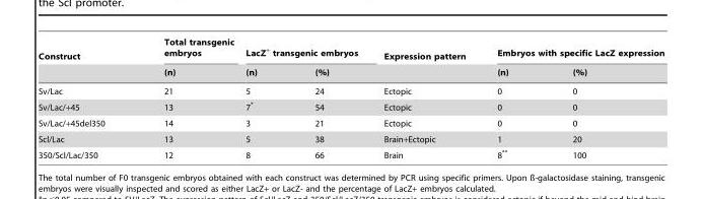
<table><thead><tr><td rowspan="2">Construct</td><td rowspan="2">Total transgenic embryos (n)</td><td colspan="2">LacZ<sup>+</sup> transgenic embryos</td><td rowspan="2">Expression pattern</td><td colspan="2">Embryos with specific LacZ expression</td></tr><tr><td>(n)</td><td>(%)</td><td>(n)</td><td>(%)</td></tr></thead><tbody><tr><td>Sv/Lac</td><td>21</td><td>5</td><td>24</td><td>Ectopic</td><td>0</td><td>0</td></tr><tr><td>Sv/Lac/+45</td><td>13</td><td>7*</td><td>54</td><td>Ectopic</td><td>0</td><td>0</td></tr><tr><td>Sv/Lac/+45del350</td><td>14</td><td>3</td><td>21</td><td>Ectopic</td><td>0</td><td>0</td></tr><tr><td>Scl/Lac</td><td>13</td><td>5</td><td>38</td><td>Brain+Ectopic</td><td>1</td><td>20</td></tr><tr><td>350/Scl/Lac/350</td><td>12</td><td>8</td><td>66</td><td>Brain</td><td>8**</td><td>100</td></tr></tbody></table>